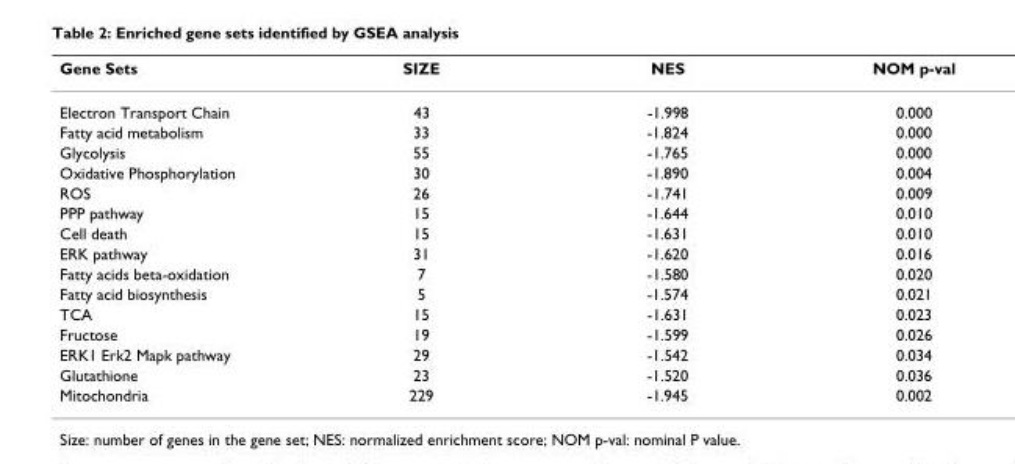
<table><thead><tr><td>Gene Sets</td><td>SIZE</td><td>NES</td><td>NOM p-val</td></tr></thead><tbody><tr><td>Electron Transport Chain</td><td>43</td><td>-1.998</td><td>0.000</td></tr><tr><td>Fatty acid metabolism</td><td>33</td><td>-1.824</td><td>0.000</td></tr><tr><td>Glycolysis</td><td>55</td><td>-1.765</td><td>0.000</td></tr><tr><td>Oxidative Phosphorylation</td><td>30</td><td>-1.890</td><td>0.004</td></tr><tr><td>ROS</td><td>26</td><td>-1.741</td><td>0.009</td></tr><tr><td>PPP pathway</td><td>15</td><td>-1.644</td><td>0.010</td></tr><tr><td>Cell death</td><td>15</td><td>-1.631</td><td>0.010</td></tr><tr><td>ERK pathway</td><td>31</td><td>-1.620</td><td>0.016</td></tr><tr><td>Fatty acids beta-oxidation</td><td>7</td><td>-1.580</td><td>0.020</td></tr><tr><td>Fatty acid biosynthesis</td><td>5</td><td>-1.574</td><td>0.021</td></tr><tr><td>TCA</td><td>15</td><td>-1.631</td><td>0.023</td></tr><tr><td>Fructose</td><td>19</td><td>-1.599</td><td>0.026</td></tr><tr><td>ERK1 Erk2 Mapk pathway</td><td>29</td><td>-1.542</td><td>0.034</td></tr><tr><td>Glutathione</td><td>23</td><td>-1.520</td><td>0.036</td></tr><tr><td>Mitochondria</td><td>229</td><td>-1.945</td><td>0.002</td></tr></tbody></table>